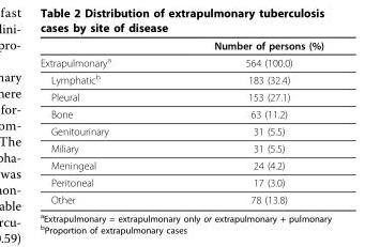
<table><thead><tr><td></td><td>Number of persons (%)</td></tr></thead><tbody><tr><td>Extrapulmonary<sup>a</sup></td><td>564 (100.0)</td></tr><tr><td>Lymphatic<sup>b</sup></td><td>183 (32.4)</td></tr><tr><td>Pleural</td><td>153 (27.1)</td></tr><tr><td>Bone</td><td>63 (11.2)</td></tr><tr><td>Genitourinary</td><td>31 (5.5)</td></tr><tr><td>Miliary</td><td>31 (5.5)</td></tr><tr><td>Meningeal</td><td>24 (4.2)</td></tr><tr><td>Peritoneal</td><td>17 (3.0)</td></tr><tr><td>Other</td><td>78 (13.8)</td></tr></tbody></table>